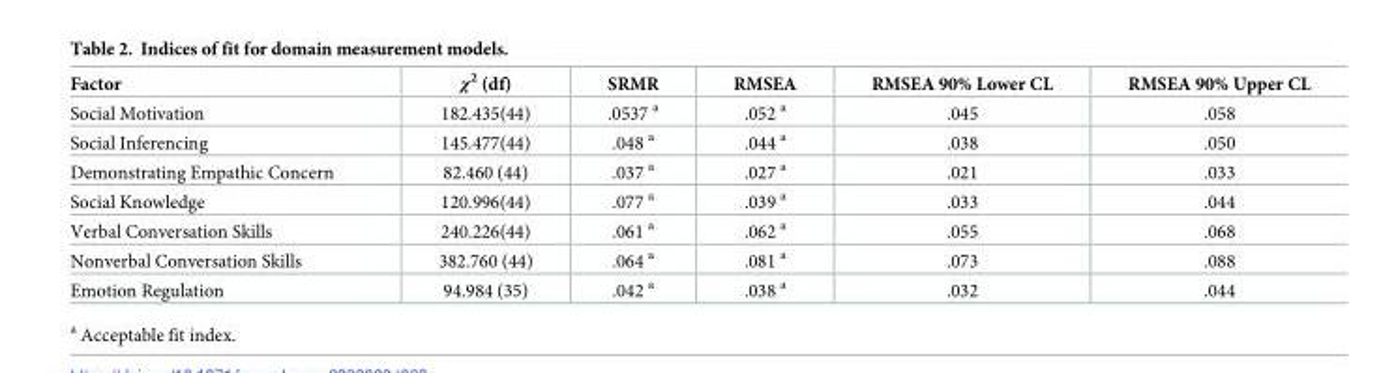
<table><thead><tr><td>Factor</td><td>χ<sup>2</sup> (df)</td><td>SRMR</td><td>RMSEA</td><td>RMSEA 90% Lower CL</td><td>RMSEA 90% Upper CL</td></tr></thead><tbody><tr><td>Social Motivation</td><td>182.435(44)</td><td>.0537 <sup>a</sup></td><td>.052 <sup>a</sup></td><td>.045</td><td>.058</td></tr><tr><td>Social Inferencing</td><td>145.477(44)</td><td>.048 <sup>a</sup></td><td>.044 <sup>a</sup></td><td>.038</td><td>.050</td></tr><tr><td>Demonstrating Empathic Concern</td><td>82.460 (44)</td><td>.037 <sup>a</sup></td><td>.027 <sup>a</sup></td><td>.021</td><td>.033</td></tr><tr><td>Social Knowledge</td><td>120.996(44)</td><td>.077 <sup>a</sup></td><td>.039 <sup>a</sup></td><td>.033</td><td>.044</td></tr><tr><td>Verbal Conversation Skills</td><td>240.226(44)</td><td>.061 <sup>a</sup></td><td>.062 <sup>a</sup></td><td>.055</td><td>.068</td></tr><tr><td>Nonverbal Conversation Skills</td><td>382.760 (44)</td><td>.064 <sup>a</sup></td><td>.081 <sup>a</sup></td><td>.073</td><td>.088</td></tr><tr><td>Emotion Regulation</td><td>94.984 (35)</td><td>.042 <sup>a</sup></td><td>.038 <sup>a</sup></td><td>.032</td><td>.044</td></tr></tbody></table>